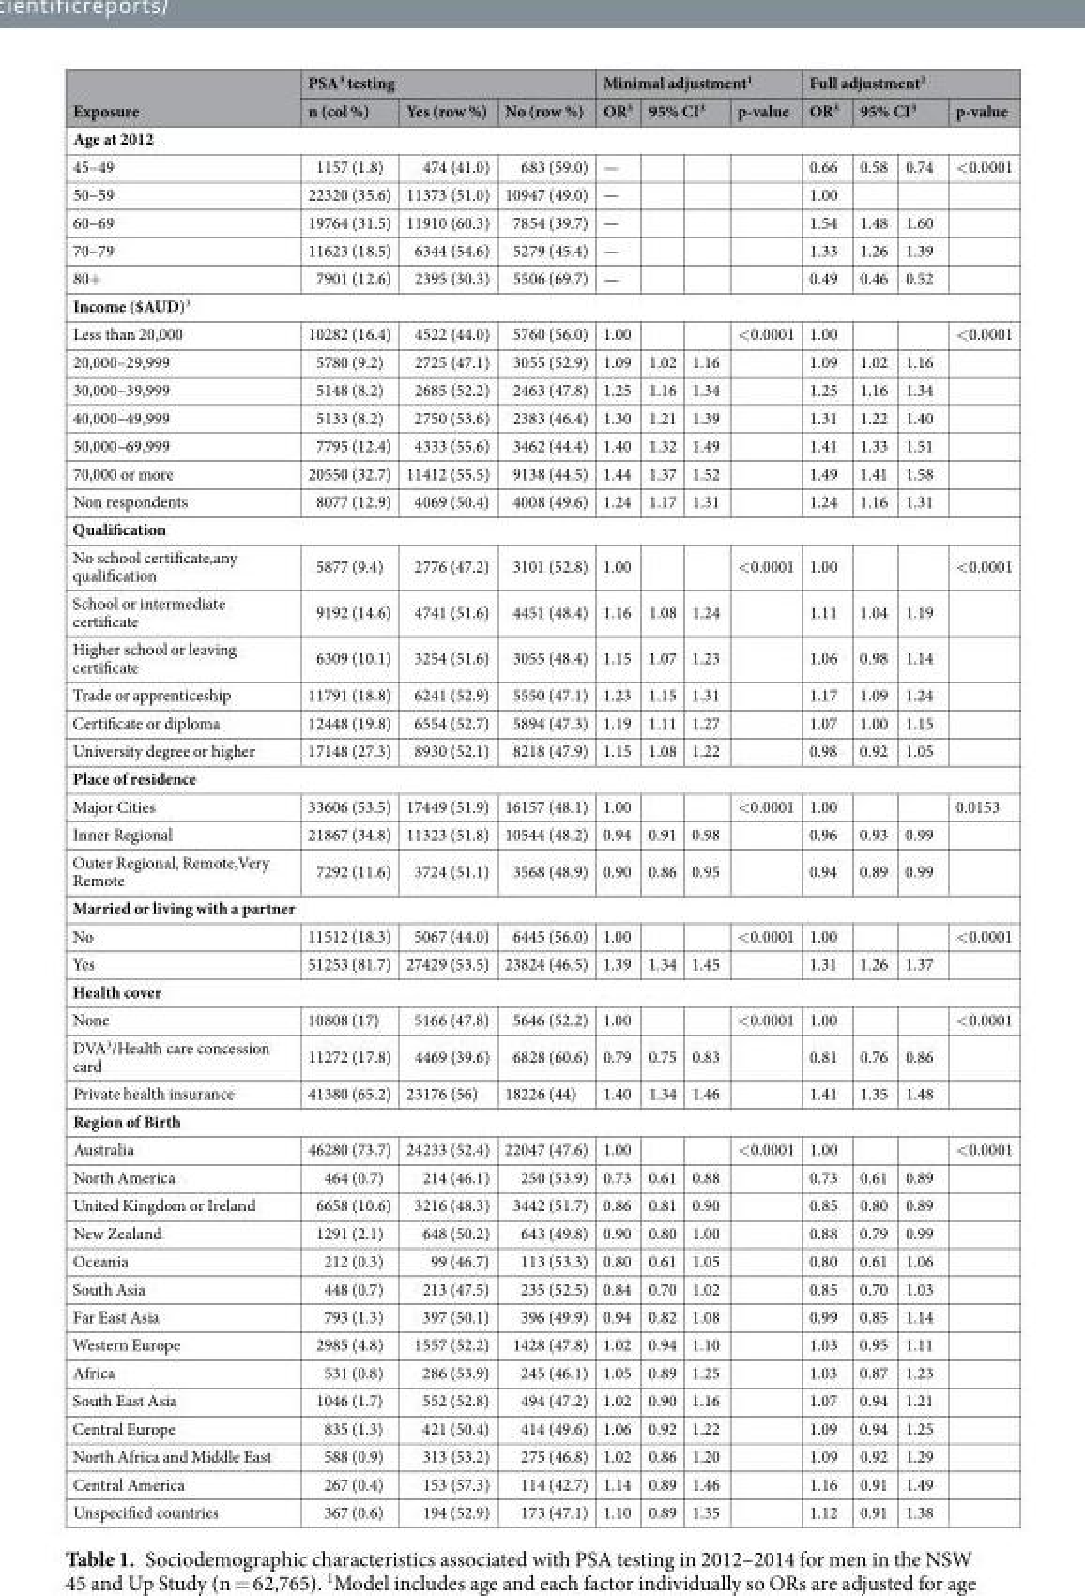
<table><thead><tr><td rowspan="2">Exposure</td><td colspan="3">PSA<sup>3</sup> testing</td><td colspan="4">Minimal adjustment<sup>1</sup></td><td colspan="4">Full adjustment<sup>2</sup></td></tr><tr><td>n (col %)</td><td>Yes (row %)</td><td>No (row %)</td><td>OR<sup>3</sup></td><td colspan="2">95% CI<sup>3</sup></td><td>p-value</td><td>OR<sup>3</sup></td><td colspan="2">95% CI<sup>3</sup></td><td>p-value</td></tr><tr><td colspan="12">Age at 2012</td></tr><tr><td>45–49</td><td>1157 (1.8)</td><td>474 (41.0)</td><td>683 (59.0)</td><td>—</td><td></td><td></td><td></td><td>0.66</td><td>0.58</td><td>0.74</td><td>&lt;0.0001</td></tr></thead><tbody><tr><td>50–59</td><td>22320 (35.6)</td><td>11373 (51.0)</td><td>10947 (49.0)</td><td>—</td><td></td><td></td><td></td><td>1.00</td><td></td><td></td><td></td></tr><tr><td>60–69</td><td>19764 (31.5)</td><td>11910 (60.3)</td><td>7854 (39.7)</td><td>—</td><td></td><td></td><td></td><td>1.54</td><td>1.48</td><td>1.60</td><td></td></tr><tr><td>70–79</td><td>11623 (18.5)</td><td>6344 (54.6)</td><td>5279 (45.4)</td><td>—</td><td></td><td></td><td></td><td>1.33</td><td>1.26</td><td>1.39</td><td></td></tr><tr><td>80+</td><td>7901 (12.6)</td><td>2395 (30.3)</td><td>5506 (69.7)</td><td>—</td><td></td><td></td><td></td><td>0.49</td><td>0.46</td><td>0.52</td><td></td></tr><tr><td colspan="12">Income ($AUD)<sup>3</sup></td></tr><tr><td>Less than 20,000</td><td>10282 (16.4)</td><td>4522 (44.0)</td><td>5760 (56.0)</td><td>1.00</td><td></td><td></td><td>&lt;0.0001</td><td>1.00</td><td></td><td></td><td>&lt;0.0001</td></tr><tr><td>20,000–29,999</td><td>5780 (9.2)</td><td>2725 (47.1)</td><td>3055 (52.9)</td><td>1.09</td><td>1.02</td><td>1.16</td><td></td><td>1.09</td><td>1.02</td><td>1.16</td><td></td></tr><tr><td>30,000–39,999</td><td>5148 (8.2)</td><td>2685 (52.2)</td><td>2463 (47.8)</td><td>1.25</td><td>1.16</td><td>1.34</td><td></td><td>1.25</td><td>1.16</td><td>1.34</td><td></td></tr><tr><td>40,000–49,999</td><td>5133 (8.2)</td><td>2750 (53.6)</td><td>2383 (46.4)</td><td>1.30</td><td>1.21</td><td>1.39</td><td></td><td>1.31</td><td>1.22</td><td>1.40</td><td></td></tr><tr><td>50,000–69,999</td><td>7795 (12.4)</td><td>4333 (55.6)</td><td>3462 (44.4)</td><td>1.40</td><td>1.32</td><td>1.49</td><td></td><td>1.41</td><td>1.33</td><td>1.51</td><td></td></tr><tr><td>70,000 or more</td><td>20550 (32.7)</td><td>11412 (55.5)</td><td>9138 (44.5)</td><td>1.44</td><td>1.37</td><td>1.52</td><td></td><td>1.49</td><td>1.41</td><td>1.58</td><td></td></tr><tr><td>Non respondents</td><td>8077 (12.9)</td><td>4069 (50.4)</td><td>4008 (49.6)</td><td>1.24</td><td>1.17</td><td>1.31</td><td></td><td>1.24</td><td>1.16</td><td>1.31</td><td></td></tr><tr><td colspan="12">Qualification</td></tr><tr><td>No school certificate,any qualification</td><td>5877 (9.4)</td><td>2776 (47.2)</td><td>3101 (52.8)</td><td>1.00</td><td></td><td></td><td>&lt;0.0001</td><td>1.00</td><td></td><td></td><td>&lt;0.0001</td></tr><tr><td>School or intermediate certificate</td><td>9192 (14.6)</td><td>4741 (51.6)</td><td>4451 (48.4)</td><td>1.16</td><td>1.08</td><td>1.24</td><td></td><td>1.11</td><td>1.04</td><td>1.19</td><td></td></tr><tr><td>Higher school or leaving certificate</td><td>6309 (10.1)</td><td>3254 (51.6)</td><td>3055 (48.4)</td><td>1.15</td><td>1.07</td><td>1.23</td><td></td><td>1.06</td><td>0.98</td><td>1.14</td><td></td></tr><tr><td>Trade or apprenticeship</td><td>11791 (18.8)</td><td>6241 (52.9)</td><td>5550 (47.1)</td><td>1.23</td><td>1.15</td><td>1.31</td><td></td><td>1.17</td><td>1.09</td><td>1.24</td><td></td></tr><tr><td>Certificate or diploma</td><td>12448 (19.8)</td><td>6554 (52.7)</td><td>5894 (47.3)</td><td>1.19</td><td>1.11</td><td>1.27</td><td></td><td>1.07</td><td>1.00</td><td>1.15</td><td></td></tr><tr><td>University degree or higher</td><td>17148 (27.3)</td><td>8930 (52.1)</td><td>8218 (47.9)</td><td>1.15</td><td>1.08</td><td>1.22</td><td></td><td>0.98</td><td>0.92</td><td>1.05</td><td></td></tr><tr><td colspan="12">Place of residence</td></tr><tr><td>Major Cities</td><td>33606 (53.5)</td><td>17449 (51.9)</td><td>16157 (48.1)</td><td>1.00</td><td></td><td></td><td>&lt;0.0001</td><td>1.00</td><td></td><td></td><td>0.0153</td></tr><tr><td>Inner Regional</td><td>21867 (34.8)</td><td>11323 (51.8)</td><td>10544 (48.2)</td><td>0.94</td><td>0.91</td><td>0.98</td><td></td><td>0.96</td><td>0.93</td><td>0.99</td><td></td></tr><tr><td>Outer Regional, Remote,Very Remote</td><td>7292 (11.6)</td><td>3724 (51.1)</td><td>3568 (48.9)</td><td>0.90</td><td>0.86</td><td>0.95</td><td></td><td>0.94</td><td>0.89</td><td>0.99</td><td></td></tr><tr><td colspan="12">Married or living with a partner</td></tr><tr><td>No</td><td>11512 (18.3)</td><td>5067 (44.0)</td><td>6445 (56.0)</td><td>1.00</td><td></td><td></td><td>&lt;0.0001</td><td>1.00</td><td></td><td></td><td>&lt;0.0001</td></tr><tr><td>Yes</td><td>51253 (81.7)</td><td>27429 (53.5)</td><td>23824 (46.5)</td><td>1.39</td><td>1.34</td><td>1.45</td><td></td><td>1.31</td><td>1.26</td><td>1.37</td><td></td></tr><tr><td colspan="12">Health cover</td></tr><tr><td>None</td><td>10808 (17)</td><td>5166 (47.8)</td><td>5646 (52.2)</td><td>1.00</td><td></td><td></td><td>&lt;0.0001</td><td>1.00</td><td></td><td></td><td>&lt;0.0001</td></tr><tr><td>DVA<sup>3</sup>/Health care concession card</td><td>11272 (17.8)</td><td>4469 (39.6)</td><td>6828 (60.6)</td><td>0.79</td><td>0.75</td><td>0.83</td><td></td><td>0.81</td><td>0.76</td><td>0.86</td><td></td></tr><tr><td>Private health insurance</td><td>41380 (65.2)</td><td>23176 (56)</td><td>18226 (44)</td><td>1.40</td><td>1.34</td><td>1.46</td><td></td><td>1.41</td><td>1.35</td><td>1.48</td><td></td></tr><tr><td colspan="12">Region of Birth</td></tr><tr><td>Australia</td><td>46280 (73.7)</td><td>24233 (52.4)</td><td>22047 (47.6)</td><td>1.00</td><td></td><td></td><td>&lt;0.0001</td><td>1.00</td><td></td><td></td><td>&lt;0.0001</td></tr><tr><td>North America</td><td>464 (0.7)</td><td>214 (46.1)</td><td>250 (53.9)</td><td>0.73</td><td>0.61</td><td>0.88</td><td></td><td>0.73</td><td>0.61</td><td>0.89</td><td></td></tr><tr><td>United Kingdom or Ireland</td><td>6658 (10.6)</td><td>3216 (48.3)</td><td>3442 (51.7)</td><td>0.86</td><td>0.81</td><td>0.90</td><td></td><td>0.85</td><td>0.80</td><td>0.89</td><td></td></tr><tr><td>New Zealand</td><td>1291 (2.1)</td><td>648 (50.2)</td><td>643 (49.8)</td><td>0.90</td><td>0.80</td><td>1.00</td><td></td><td>0.88</td><td>0.79</td><td>0.99</td><td></td></tr><tr><td>Oceania</td><td>212 (0.3)</td><td>99 (46.7)</td><td>113 (53.3)</td><td>0.80</td><td>0.61</td><td>1.05</td><td></td><td>0.80</td><td>0.61</td><td>1.06</td><td></td></tr><tr><td>South Asia</td><td>448 (0.7)</td><td>213 (47.5)</td><td>235 (52.5)</td><td>0.84</td><td>0.70</td><td>1.02</td><td></td><td>0.85</td><td>0.70</td><td>1.03</td><td></td></tr><tr><td>Far East Asia</td><td>793 (1.3)</td><td>397 (50.1)</td><td>396 (49.9)</td><td>0.94</td><td>0.82</td><td>1.08</td><td></td><td>0.99</td><td>0.85</td><td>1.14</td><td></td></tr><tr><td>Western Europe</td><td>2985 (4.8)</td><td>1557 (52.2)</td><td>1428 (47.8)</td><td>1.02</td><td>0.94</td><td>1.10</td><td></td><td>1.03</td><td>0.95</td><td>1.11</td><td></td></tr><tr><td>Africa</td><td>531 (0.8)</td><td>286 (53.9)</td><td>245 (46.1)</td><td>1.05</td><td>0.89</td><td>1.25</td><td></td><td>1.03</td><td>0.87</td><td>1.23</td><td></td></tr><tr><td>South East Asia</td><td>1046 (1.7)</td><td>552 (52.8)</td><td>494 (47.2)</td><td>1.02</td><td>0.90</td><td>1.16</td><td></td><td>1.07</td><td>0.94</td><td>1.21</td><td></td></tr><tr><td>Central Europe</td><td>835 (1.3)</td><td>421 (50.4)</td><td>414 (49.6)</td><td>1.06</td><td>0.92</td><td>1.22</td><td></td><td>1.09</td><td>0.94</td><td>1.25</td><td></td></tr><tr><td>North Africa and Middle East</td><td>588 (0.9)</td><td>313 (53.2)</td><td>275 (46.8)</td><td>1.02</td><td>0.86</td><td>1.20</td><td></td><td>1.09</td><td>0.92</td><td>1.29</td><td></td></tr><tr><td>Central America</td><td>267 (0.4)</td><td>153 (57.3)</td><td>114 (42.7)</td><td>1.14</td><td>0.89</td><td>1.46</td><td></td><td>1.16</td><td>0.91</td><td>1.49</td><td></td></tr><tr><td>Unspecified countries</td><td>367 (0.6)</td><td>194 (52.9)</td><td>173 (47.1)</td><td>1.10</td><td>0.89</td><td>1.35</td><td></td><td>1.12</td><td>0.91</td><td>1.38</td><td></td></tr></tbody></table>